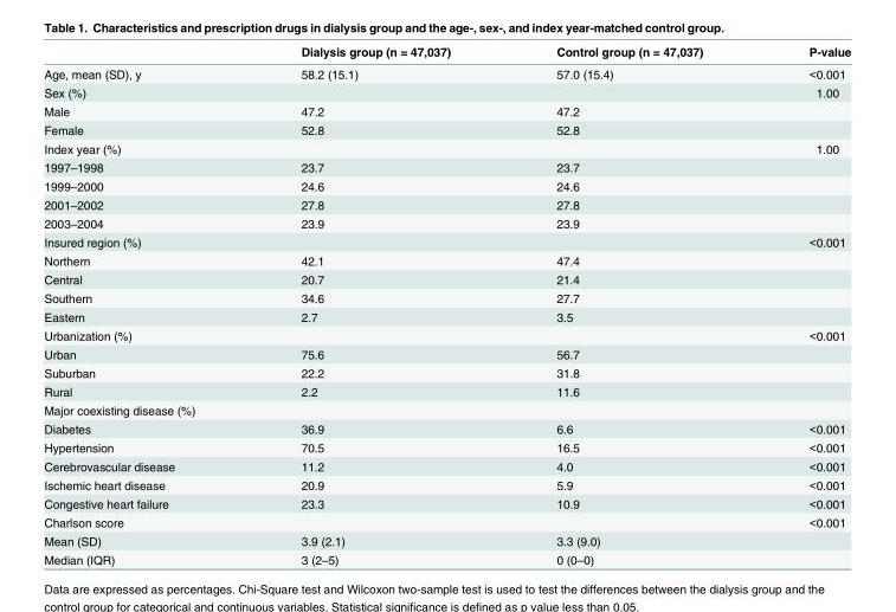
<table><thead><tr><td></td><td>Dialysis group (n = 47,037)</td><td>Control group (n = 47,037)</td><td>P-value</td></tr></thead><tbody><tr><td>Age, mean (SD), y</td><td>58.2 (15.1)</td><td>57.0 (15.4)</td><td>&lt;0.001</td></tr><tr><td>Sex (%)</td><td></td><td></td><td>1.00</td></tr><tr><td>Male</td><td>47.2</td><td>47.2</td><td></td></tr><tr><td>Female</td><td>52.8</td><td>52.8</td><td></td></tr><tr><td>Index year (%)</td><td></td><td></td><td>1.00</td></tr><tr><td>1997–1998</td><td>23.7</td><td>23.7</td><td></td></tr><tr><td>1999–2000</td><td>24.6</td><td>24.6</td><td></td></tr><tr><td>2001–2002</td><td>27.8</td><td>27.8</td><td></td></tr><tr><td>2003–2004</td><td>23.9</td><td>23.9</td><td></td></tr><tr><td>Insured region (%)</td><td></td><td></td><td>&lt;0.001</td></tr><tr><td>Northern</td><td>42.1</td><td>47.4</td><td></td></tr><tr><td>Central</td><td>20.7</td><td>21.4</td><td></td></tr><tr><td>Southern</td><td>34.6</td><td>27.7</td><td></td></tr><tr><td>Eastern</td><td>2.7</td><td>3.5</td><td></td></tr><tr><td>Urbanization (%)</td><td></td><td></td><td>&lt;0.001</td></tr><tr><td>Urban</td><td>75.6</td><td>56.7</td><td></td></tr><tr><td>Suburban</td><td>22.2</td><td>31.8</td><td></td></tr><tr><td>Rural</td><td>2.2</td><td>11.6</td><td></td></tr><tr><td colspan="4">Major coexisting disease (%)</td></tr><tr><td>Diabetes</td><td>36.9</td><td>6.6</td><td>&lt;0.001</td></tr><tr><td>Hypertension</td><td>70.5</td><td>16.5</td><td>&lt;0.001</td></tr><tr><td>Cerebrovascular disease</td><td>11.2</td><td>4.0</td><td>&lt;0.001</td></tr><tr><td>Ischemic heart disease</td><td>20.9</td><td>5.9</td><td>&lt;0.001</td></tr><tr><td>Congestive heart failure</td><td>23.3</td><td>10.9</td><td>&lt;0.001</td></tr><tr><td>Charlson score</td><td></td><td></td><td>&lt;0.001</td></tr><tr><td>Mean (SD)</td><td>3.9 (2.1)</td><td>3.3 (9.0)</td><td></td></tr><tr><td>Median (IQR)</td><td>3 (2–5)</td><td>0 (0–0)</td><td></td></tr></tbody></table>